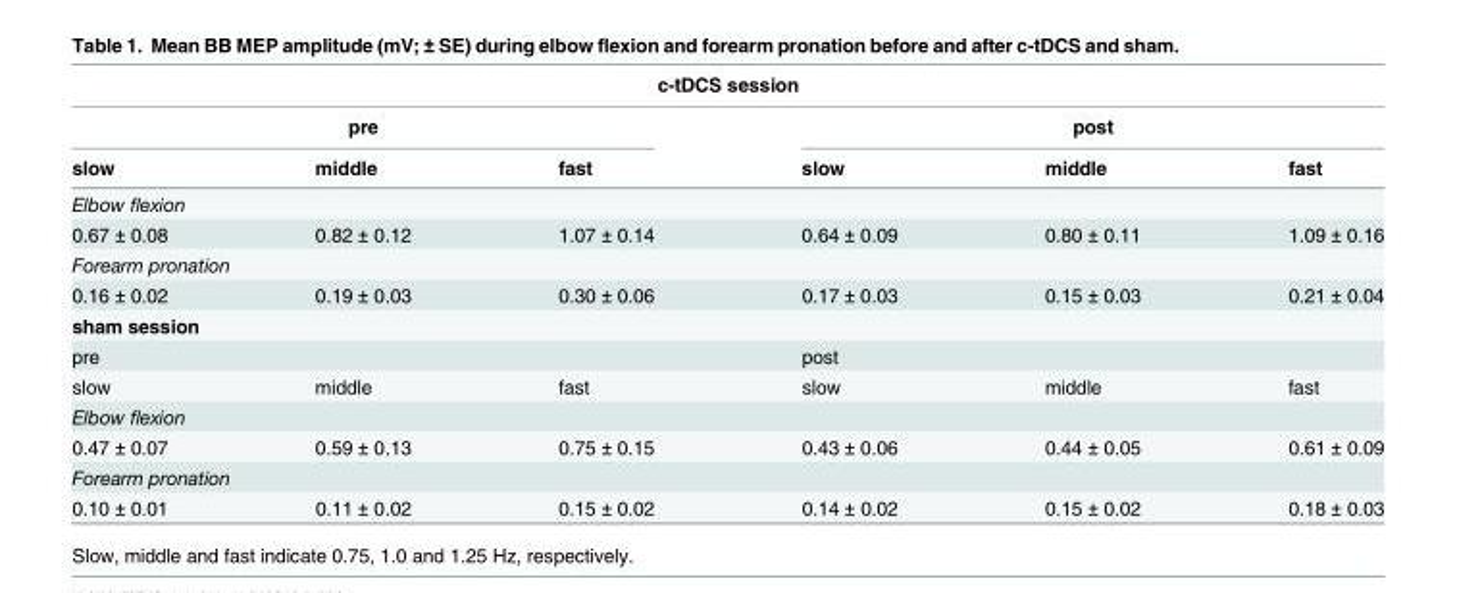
<table><thead><tr><td colspan="6">c-tDCS session</td></tr><tr><td colspan="3">pre</td><td colspan="3">post</td></tr><tr><td>slow</td><td>middle</td><td>fast</td><td>slow</td><td>middle</td><td>fast</td></tr></thead><tbody><tr><td colspan="6">Elbow flexion</td></tr><tr><td>0.67 ± 0.08</td><td>0.82 ± 0.12</td><td>1.07 ± 0.14</td><td>0.64 ± 0.09</td><td>0.80 ± 0.11</td><td>1.09 ± 0.16</td></tr><tr><td colspan="6">Forearm pronation</td></tr><tr><td>0.16 ± 0.02</td><td>0.19 ± 0.03</td><td>0.30 ± 0.06</td><td>0.17 ± 0.03</td><td>0.15 ± 0.03</td><td>0.21 ± 0.04</td></tr><tr><td colspan="6">sham session</td></tr><tr><td colspan="3">pre</td><td colspan="3">post</td></tr><tr><td>slow</td><td>middle</td><td>fast</td><td>slow</td><td>middle</td><td>fast</td></tr><tr><td colspan="6">Elbow flexion</td></tr><tr><td>0.47 ± 0.07</td><td>0.59 ± 0.13</td><td>0.75 ± 0.15</td><td>0.43 ± 0.06</td><td>0.44 ± 0.05</td><td>0.61 ± 0.09</td></tr><tr><td colspan="6">Forearm pronation</td></tr><tr><td>0.10 ± 0.01</td><td>0.11 ± 0.02</td><td>0.15 ± 0.02</td><td>0.14 ± 0.02</td><td>0.15 ± 0.02</td><td>0.18 ± 0.03</td></tr></tbody></table>